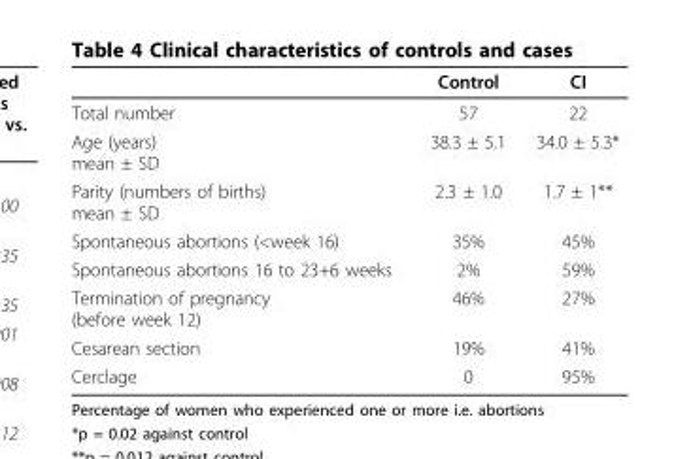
<table><thead><tr><td></td><td>Control</td><td>CI</td></tr></thead><tbody><tr><td>Total number</td><td>57</td><td>22</td></tr><tr><td>Age (years) mean ± SD</td><td>38.3 ± 5.1</td><td>34.0 ± 5.3*</td></tr><tr><td>Parity (numbers of births) mean ± SD</td><td>2.3 ± 1.0</td><td>1.7 ± 1**</td></tr><tr><td>Spontaneous abortions (&lt;week 16)</td><td>35%</td><td>45%</td></tr><tr><td>Spontaneous abortions 16 to 23+6 weeks</td><td>2%</td><td>59%</td></tr><tr><td>Termination of pregnancy (before week 12)</td><td>46%</td><td>27%</td></tr><tr><td>Cesarean section</td><td>19%</td><td>41%</td></tr><tr><td>Cerclage</td><td>0</td><td>95%</td></tr></tbody></table>